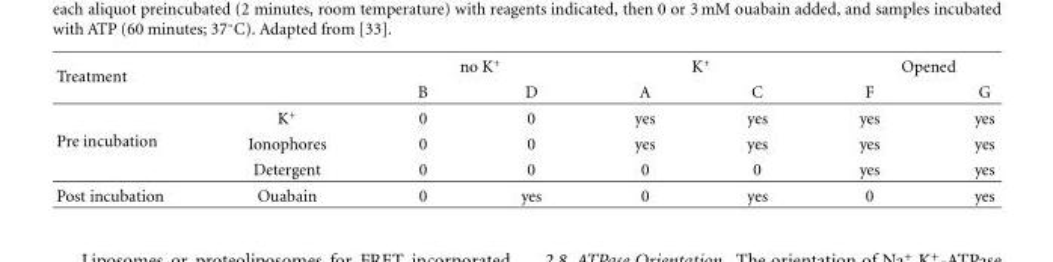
<table><thead><tr><td rowspan="2">Treatment</td><td rowspan="2"></td><td colspan="2">no K<sup>+</sup></td><td colspan="2">K<sup>+</sup></td><td colspan="2">Opened</td></tr><tr><td>B</td><td>D</td><td>A</td><td>C</td><td>F</td><td>G</td></tr></thead><tbody><tr><td rowspan="3">Pre incubation</td><td>K<sup>+</sup></td><td>0</td><td>0</td><td>yes</td><td>yes</td><td>yes</td><td>yes</td></tr><tr><td>Ionophores</td><td>0</td><td>0</td><td>yes</td><td>yes</td><td>yes</td><td>yes</td></tr><tr><td>Detergent</td><td>0</td><td>0</td><td>0</td><td>0</td><td>yes</td><td>yes</td></tr><tr><td>Post incubation</td><td>Ouabain</td><td>0</td><td>yes</td><td>0</td><td>yes</td><td>0</td><td>yes</td></tr></tbody></table>